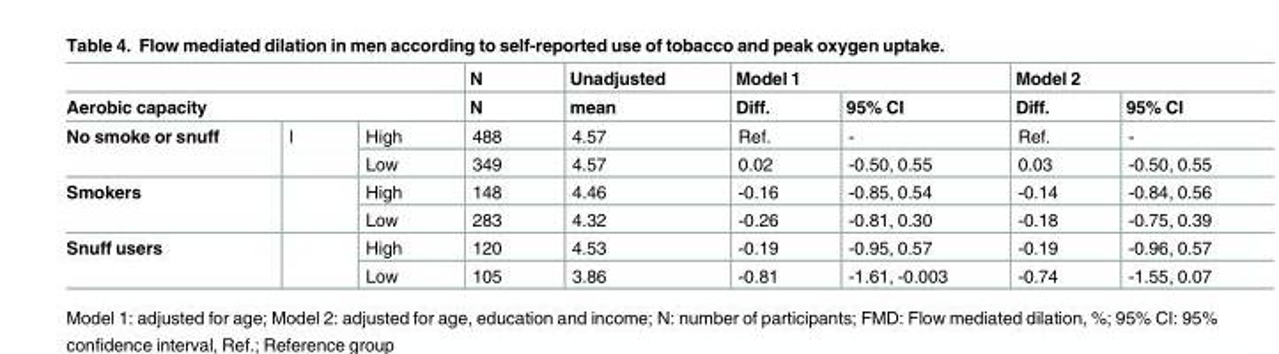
<table><thead><tr><td></td><td></td><td></td><td rowspan="2">N N</td><td rowspan="2">Unadjusted mean</td><td colspan="2">Model 1</td><td colspan="2">Model 2</td></tr><tr><td colspan="3">Aerobic capacity</td><td>Diff.</td><td>95% CI</td><td>Diff.</td><td>95% CI</td></tr></thead><tbody><tr><td rowspan="2">No smoke or snuff</td><td rowspan="2">l</td><td>High</td><td>488</td><td>4.57</td><td>Ref.</td><td>-</td><td>Ref.</td><td>-</td></tr><tr><td>Low</td><td>349</td><td>4.57</td><td>0.02</td><td>-0.50, 0.55</td><td>0.03</td><td>-0.50, 0.55</td></tr><tr><td rowspan="2">Smokers</td><td rowspan="2"></td><td>High</td><td>148</td><td>4.46</td><td>-0.16</td><td>-0.85, 0.54</td><td>-0.14</td><td>-0.84, 0.56</td></tr><tr><td>Low</td><td>283</td><td>4.32</td><td>-0.26</td><td>-0.81, 0.30</td><td>-0.18</td><td>-0.75, 0.39</td></tr><tr><td rowspan="2">Snuff users</td><td rowspan="2"></td><td>High</td><td>120</td><td>4.53</td><td>-0.19</td><td>-0.95, 0.57</td><td>-0.19</td><td>-0.96, 0.57</td></tr><tr><td>Low</td><td>105</td><td>3.86</td><td>-0.81</td><td>-1.61, -0.003</td><td>-0.74</td><td>-1.55, 0.07</td></tr></tbody></table>